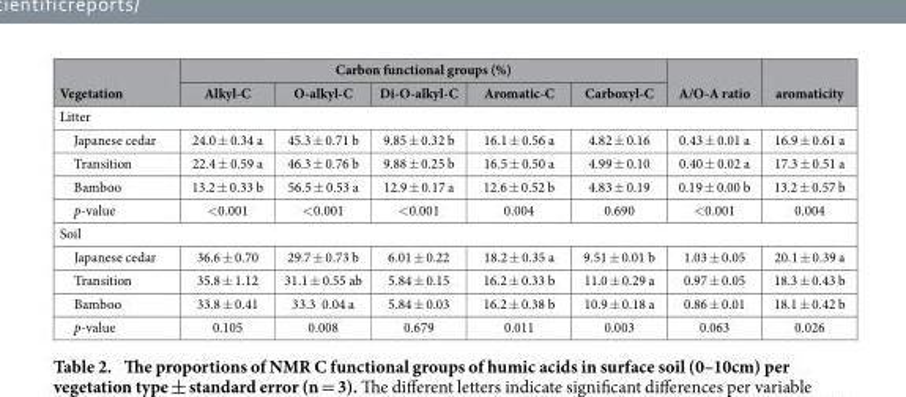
<table><thead><tr><td rowspan="2">Vegetation</td><td colspan="5">Carbon functional groups (%)</td><td rowspan="2">A/O-A ratio</td><td rowspan="2">aromaticity</td></tr><tr><td>Alkyl-C</td><td>O-alkyl-C</td><td>Di-O-alkyl-C</td><td>Aromatic-C</td><td>Carboxyl-C</td></tr></thead><tbody><tr><td colspan="8">Litter</td></tr><tr><td>Japanese cedar</td><td>24.0 ± 0.34 a</td><td>45.3 ± 0.71 b</td><td>9.85 ± 0.32 b</td><td>16.1 ± 0.56 a</td><td>4.82 ± 0.16</td><td>0.43 ± 0.01 a</td><td>16.9 ± 0.61 a</td></tr><tr><td>Transition</td><td>22.4 ± 0.59 a</td><td>46.3 ± 0.76 b</td><td>9.88 ± 0.25 b</td><td>16.5 ± 0.50 a</td><td>4.99 ± 0.10</td><td>0.40 ± 0.02 a</td><td>17.3 ± 0.51 a</td></tr><tr><td>Bamboo</td><td>13.2 ± 0.33 b</td><td>56.5 ± 0.53 a</td><td>12.9 ± 0.17 a</td><td>12.6 ± 0.52 b</td><td>4.83 ± 0.19</td><td>0.19 ± 0.00 b</td><td>13.2 ± 0.57 b</td></tr><tr><td>p-value</td><td>&lt; 0.001</td><td>&lt; 0.001</td><td>&lt; 0.001</td><td>0.004</td><td>0.690</td><td>&lt; 0.001</td><td>0.004</td></tr><tr><td colspan="8">Soil</td></tr><tr><td>Japanese cedar</td><td>36.6 ± 0.70</td><td>29.7 ± 0.73 b</td><td>6.01 ± 0.22</td><td>18.2 ± 0.35 a</td><td>9.51 ± 0.01 b</td><td>1.03 ± 0.05</td><td>20.1 ± 0.39 a</td></tr><tr><td>Transition</td><td>35.8 ± 1.12</td><td>31.1 ± 0.55 ab</td><td>5.84 ± 0.15</td><td>16.2 ± 0.33 b</td><td>11.0 ± 0.29 a</td><td>0.97 ± 0.05</td><td>18.3 ± 0.43 b</td></tr><tr><td>Bamboo</td><td>33.8 ± 0.41</td><td>33.3 0.04 a</td><td>5.84 ± 0.03</td><td>16.2 ± 0.38 b</td><td>10.9 ± 0.18 a</td><td>0.86 ± 0.01</td><td>18.1 ± 0.42 b</td></tr><tr><td>p-value</td><td>0.105</td><td>0.008</td><td>0.679</td><td>0.011</td><td>0.003</td><td>0.063</td><td>0.026</td></tr></tbody></table>